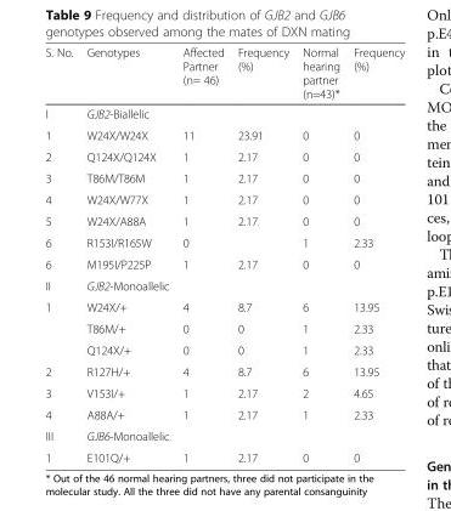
<table><thead><tr><td>S. No.</td><td>Genotypes</td><td>Affected Partner (n= 46)</td><td>Frequency (%)</td><td>Normal hearing partner (n=43)*</td><td>Frequency (%)</td></tr></thead><tbody><tr><td>I</td><td>GJB2-Biallelic</td><td></td><td></td><td></td><td></td></tr><tr><td>1</td><td>W24X/W24X</td><td>11</td><td>23.91</td><td>0</td><td>0</td></tr><tr><td>2</td><td>Q124X/Q124X</td><td>1</td><td>2.17</td><td>0</td><td>0</td></tr><tr><td>3</td><td>T86M/T86M</td><td>1</td><td>2.17</td><td>0</td><td>0</td></tr><tr><td>4</td><td>W24X/W77X</td><td>1</td><td>2.17</td><td>0</td><td>0</td></tr><tr><td>5</td><td>W24X/A88A</td><td>1</td><td>2.17</td><td>0</td><td>0</td></tr><tr><td>6</td><td>R153I/R165W</td><td>0</td><td></td><td>1</td><td>2.33</td></tr><tr><td>6</td><td>M195I/P225P</td><td>1</td><td>2.17</td><td>0</td><td>0</td></tr><tr><td>II</td><td>GJB2-Monoallelic</td><td></td><td></td><td></td><td></td></tr><tr><td rowspan="3">1</td><td>W24X/+</td><td>4</td><td>8.7</td><td>6</td><td>13.95</td></tr><tr><td>T86M/+</td><td>0</td><td>0</td><td>1</td><td>2.33</td></tr><tr><td>Q124X/+</td><td>0</td><td>0</td><td>1</td><td>2.33</td></tr><tr><td>2</td><td>R127H/+</td><td>4</td><td>8.7</td><td>6</td><td>13.95</td></tr><tr><td>3</td><td>V153I/+</td><td>1</td><td>2.17</td><td>2</td><td>4.65</td></tr><tr><td>4</td><td>A88A/+</td><td>1</td><td>2.17</td><td>1</td><td>2.33</td></tr><tr><td>III</td><td>GJB6-Monoallelic</td><td></td><td></td><td></td><td></td></tr><tr><td>1</td><td>E101Q/+</td><td>1</td><td>2.17</td><td>0</td><td>0</td></tr></tbody></table>